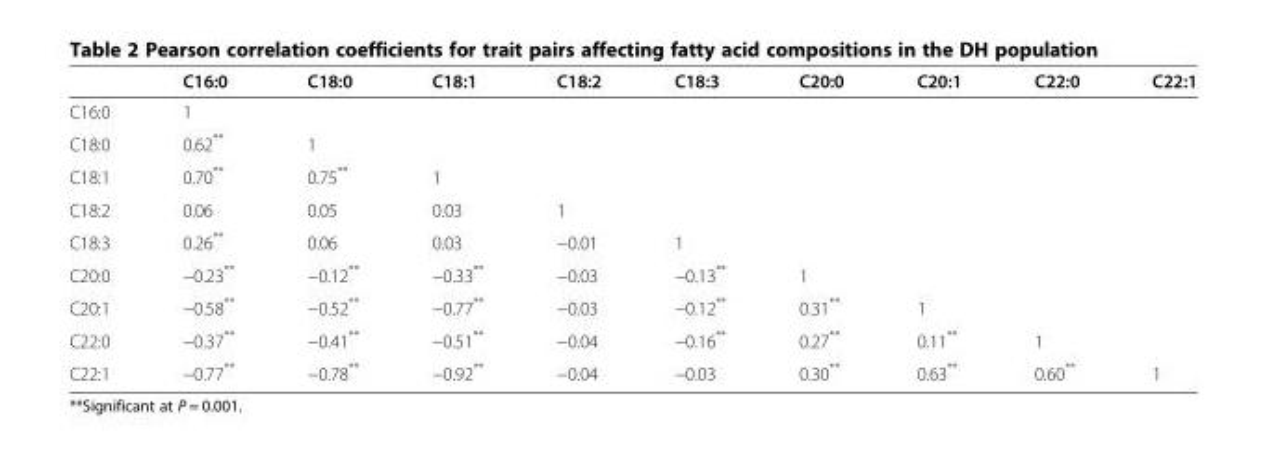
<table><thead><tr><td></td><td>C16:0</td><td>C18:0</td><td>C18:1</td><td>C18:2</td><td>C18:3</td><td>C20:0</td><td>C20:1</td><td>C22:0</td><td>C22:1</td></tr></thead><tbody><tr><td>C16:0</td><td>1</td><td></td><td></td><td></td><td></td><td></td><td></td><td></td><td></td></tr><tr><td>C18:0</td><td>0.62**</td><td>1</td><td></td><td></td><td></td><td></td><td></td><td></td><td></td></tr><tr><td>C18:1</td><td>0.70**</td><td>0.75**</td><td>1</td><td></td><td></td><td></td><td></td><td></td><td></td></tr><tr><td>C18:2</td><td>0.06</td><td>0.05</td><td>0.03</td><td>1</td><td></td><td></td><td></td><td></td><td></td></tr><tr><td>C18:3</td><td>0.26**</td><td>0.06</td><td>0.03</td><td>−0.01</td><td>1</td><td></td><td></td><td></td><td></td></tr><tr><td>C20:0</td><td>−0.23**</td><td>−0.12**</td><td>−0.33**</td><td>−0.03</td><td>−0.13**</td><td>1</td><td></td><td></td><td></td></tr><tr><td>C20:1</td><td>−0.58**</td><td>−0.52**</td><td>−0.77**</td><td>−0.03</td><td>−0.12**</td><td>0.31**</td><td>1</td><td></td><td></td></tr><tr><td>C22:0</td><td>−0.37**</td><td>−0.41**</td><td>−0.51**</td><td>−0.04</td><td>−0.16**</td><td>0.27**</td><td>0.11**</td><td>1</td><td></td></tr><tr><td>C22:1</td><td>−0.77**</td><td>−0.78**</td><td>−0.92**</td><td>−0.04</td><td>−0.03</td><td>0.30**</td><td>0.63**</td><td>0.60**</td><td>1</td></tr></tbody></table>